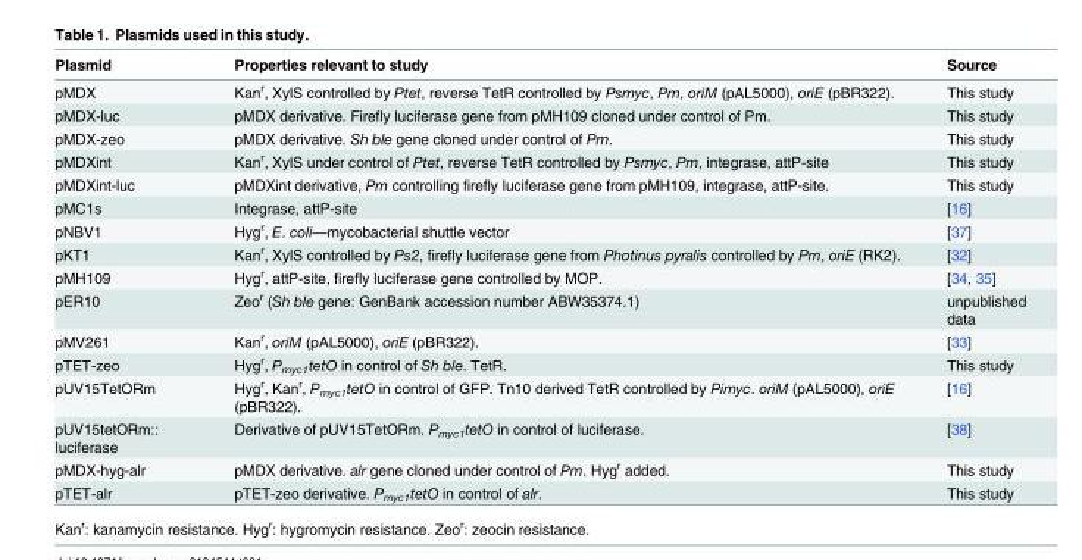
<table><thead><tr><td>Plasmid</td><td>Properties relevant to study</td><td>Source</td></tr></thead><tbody><tr><td>pMDX</td><td>Kan<sup>r</sup>, XylS controlled by Ptet, reverse TetR controlled by Psmyc, Pm, oriM (pAL5000), oriE (pBR322).</td><td>This study</td></tr><tr><td>pMDX-luc</td><td>pMDX derivative. Firefly luciferase gene from pMH109 cloned under control of Pm.</td><td>This study</td></tr><tr><td>pMDX-zeo</td><td>pMDX derivative. Sh ble gene cloned under control of Pm.</td><td>This study</td></tr><tr><td>pMDXint</td><td>Kan<sup>r</sup>, XylS under control of Ptet, reverse TetR controlled by Psmyc, Pm, integrase, attP-site</td><td>This study</td></tr><tr><td>pMDXint-luc</td><td>pMDXint derivative, Pm controlling firefly luciferase gene from pMH109, integrase, attP-site.</td><td>This study</td></tr><tr><td>pMC1s</td><td>Integrase, attP-site</td><td>[16]</td></tr><tr><td>pNBV1</td><td>Hyg<sup>r</sup>, E. coli—mycobacterial shuttle vector</td><td>[37]</td></tr><tr><td>pKT1</td><td>Kan<sup>r</sup>, XylS controlled by Ps2, firefly luciferase gene from Photinus pyralis controlled by Pm, oriE (RK2).</td><td>[32]</td></tr><tr><td>pMH109</td><td>Hyg<sup>r</sup>, attP-site, firefly luciferase gene controlled by MOP.</td><td>[34, 35]</td></tr><tr><td>pER10</td><td>Zeo<sup>r</sup> (Sh ble gene: GenBank accession number ABW35374.1)</td><td>unpublished data</td></tr><tr><td>pMV261</td><td>Kan<sup>r</sup>, oriM (pAL5000), oriE (pBR322).</td><td>[33]</td></tr><tr><td>pTET-zeo</td><td>Hyg<sup>r</sup>, P<sub>myc1</sub>tetO in control of Sh ble. TetR.</td><td>This study</td></tr><tr><td>pUV15TetORm</td><td>Hyg<sup>r</sup>, Kan<sup>r</sup>, P<sub>myc1</sub>tetO in control of GFP. Tn10 derived TetR controlled by Pimyc. oriM (pAL5000), oriE (pBR322).</td><td>[16]</td></tr><tr><td>pUV15tetORm:: luciferase</td><td>Derivative of pUV15TetORm. P<sub>myc1</sub>tetO in control of luciferase.</td><td>[38]</td></tr><tr><td>pMDX-hyg-alr</td><td>pMDX derivative. alr gene cloned under control of Pm. Hyg<sup>r</sup> added.</td><td>This study</td></tr><tr><td>pTET-alr</td><td>pTET-zeo derivative. P<sub>myc1</sub>tetO in control of alr.</td><td>This study</td></tr></tbody></table>